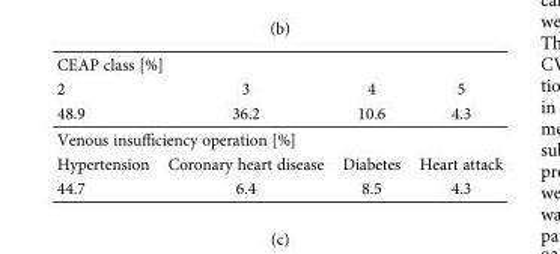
<table><tbody><tr><td colspan="4">CEAP class [%]</td></tr><tr><td>2</td><td>3</td><td>4</td><td>5</td></tr><tr><td>48.9</td><td>36.2</td><td>10.6</td><td>4.3</td></tr><tr><td colspan="4">Venous insufficiency operation [%]</td></tr><tr><td>Hypertension</td><td>Coronary heart disease</td><td>Diabetes</td><td>Heart attack</td></tr><tr><td>44.7</td><td>6.4</td><td>8.5</td><td>4.3</td></tr></tbody></table>